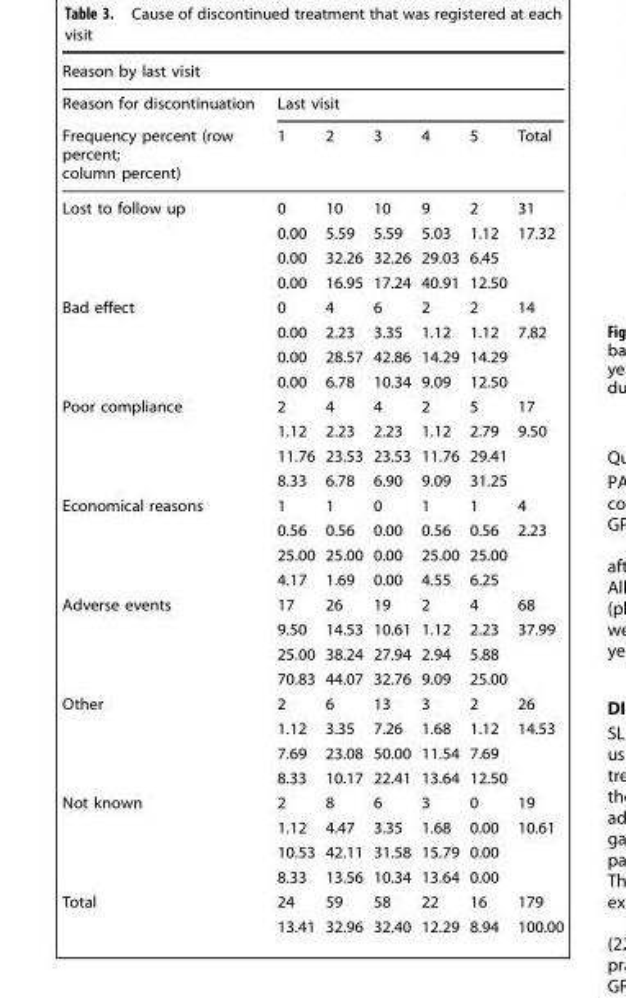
<table><thead><tr><td colspan="7">Reason by last visit</td></tr><tr><td rowspan="2">Reason for discontinuation Frequency percent (row percent; column percent)</td><td colspan="6">Last visit</td></tr><tr><td>1</td><td>2</td><td>3</td><td>4</td><td>5</td><td>Total</td></tr></thead><tbody><tr><td rowspan="4">Lost to follow up</td><td>0</td><td>10</td><td>10</td><td>9</td><td>2</td><td>31</td></tr><tr><td>0.00</td><td>5.59</td><td>5.59</td><td>5.03</td><td>1.12</td><td>17.32</td></tr><tr><td>0.00</td><td>32.26</td><td>32.26</td><td>29.03</td><td>6.45</td><td></td></tr><tr><td>0.00</td><td>16.95</td><td>17.24</td><td>40.91</td><td>12.50</td><td></td></tr><tr><td rowspan="4">Bad effect</td><td>0</td><td>4</td><td>6</td><td>2</td><td>2</td><td>14</td></tr><tr><td>0.00</td><td>2.23</td><td>3.35</td><td>1.12</td><td>1.12</td><td>7.82</td></tr><tr><td>0.00</td><td>28.57</td><td>42.86</td><td>14.29</td><td>14.29</td><td></td></tr><tr><td>0.00</td><td>6.78</td><td>10.34</td><td>9.09</td><td>12.50</td><td></td></tr><tr><td rowspan="4">Poor compliance</td><td>2</td><td>4</td><td>4</td><td>2</td><td>5</td><td>17</td></tr><tr><td>1.12</td><td>2.23</td><td>2.23</td><td>1.12</td><td>2.79</td><td>9.50</td></tr><tr><td>11.76</td><td>23.53</td><td>23.53</td><td>11.76</td><td>29.41</td><td></td></tr><tr><td>8.33</td><td>6.78</td><td>6.90</td><td>9.09</td><td>31.25</td><td></td></tr><tr><td rowspan="4">Economical reasons</td><td>1</td><td>1</td><td>0</td><td>1</td><td>1</td><td>4</td></tr><tr><td>0.56</td><td>0.56</td><td>0.00</td><td>0.56</td><td>0.56</td><td>2.23</td></tr><tr><td>25.00</td><td>25.00</td><td>0.00</td><td>25.00</td><td>25.00</td><td></td></tr><tr><td>4.17</td><td>1.69</td><td>0.00</td><td>4.55</td><td>6.25</td><td></td></tr><tr><td rowspan="4">Adverse events</td><td>17</td><td>26</td><td>19</td><td>2</td><td>4</td><td>68</td></tr><tr><td>9.50</td><td>14.53</td><td>10.61</td><td>1.12</td><td>2.23</td><td>37.99</td></tr><tr><td>25.00</td><td>38.24</td><td>27.94</td><td>2.94</td><td>5.88</td><td></td></tr><tr><td>70.83</td><td>44.07</td><td>32.76</td><td>9.09</td><td>25.00</td><td></td></tr><tr><td rowspan="4">Other</td><td>2</td><td>6</td><td>13</td><td>3</td><td>2</td><td>26</td></tr><tr><td>1.12</td><td>3.35</td><td>7.26</td><td>1.68</td><td>1.12</td><td>14.53</td></tr><tr><td>7.69</td><td>23.08</td><td>50.00</td><td>11.54</td><td>7.69</td><td></td></tr><tr><td>8.33</td><td>10.17</td><td>22.41</td><td>13.64</td><td>12.50</td><td></td></tr><tr><td rowspan="4">Not known</td><td>2</td><td>8</td><td>6</td><td>3</td><td>0</td><td>19</td></tr><tr><td>1.12</td><td>4.47</td><td>3.35</td><td>1.68</td><td>0.00</td><td>10.61</td></tr><tr><td>10.53</td><td>42.11</td><td>31.58</td><td>15.79</td><td>0.00</td><td></td></tr><tr><td>8.33</td><td>13.56</td><td>10.34</td><td>13.64</td><td>0.00</td><td></td></tr><tr><td rowspan="2">Total</td><td>24</td><td>59</td><td>58</td><td>22</td><td>16</td><td>179</td></tr><tr><td>13.41</td><td>32.96</td><td>32.40</td><td>12.29</td><td>8.94</td><td>100.00</td></tr></tbody></table>